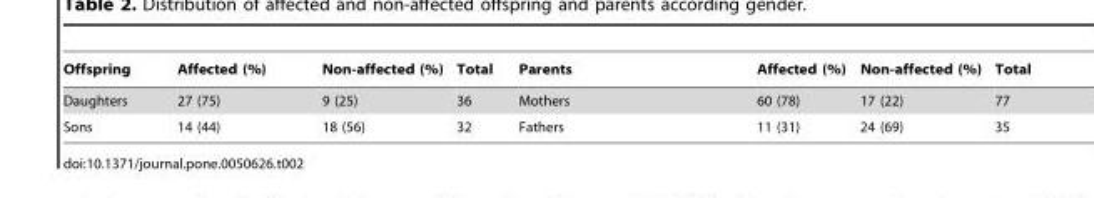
<table><thead><tr><td>Offspring</td><td>Affected (%)</td><td>Non-affected (%)</td><td>Total</td><td>Parents</td><td>Affected (%)</td><td>Non-affected (%)</td><td>Total</td></tr></thead><tbody><tr><td>Daughters</td><td>27 (75)</td><td>9 (25)</td><td>36</td><td>Mothers</td><td>60 (78)</td><td>17 (22)</td><td>77</td></tr><tr><td>Sons</td><td>14 (44)</td><td>18 (56)</td><td>32</td><td>Fathers</td><td>11 (31)</td><td>24 (69)</td><td>35</td></tr></tbody></table>